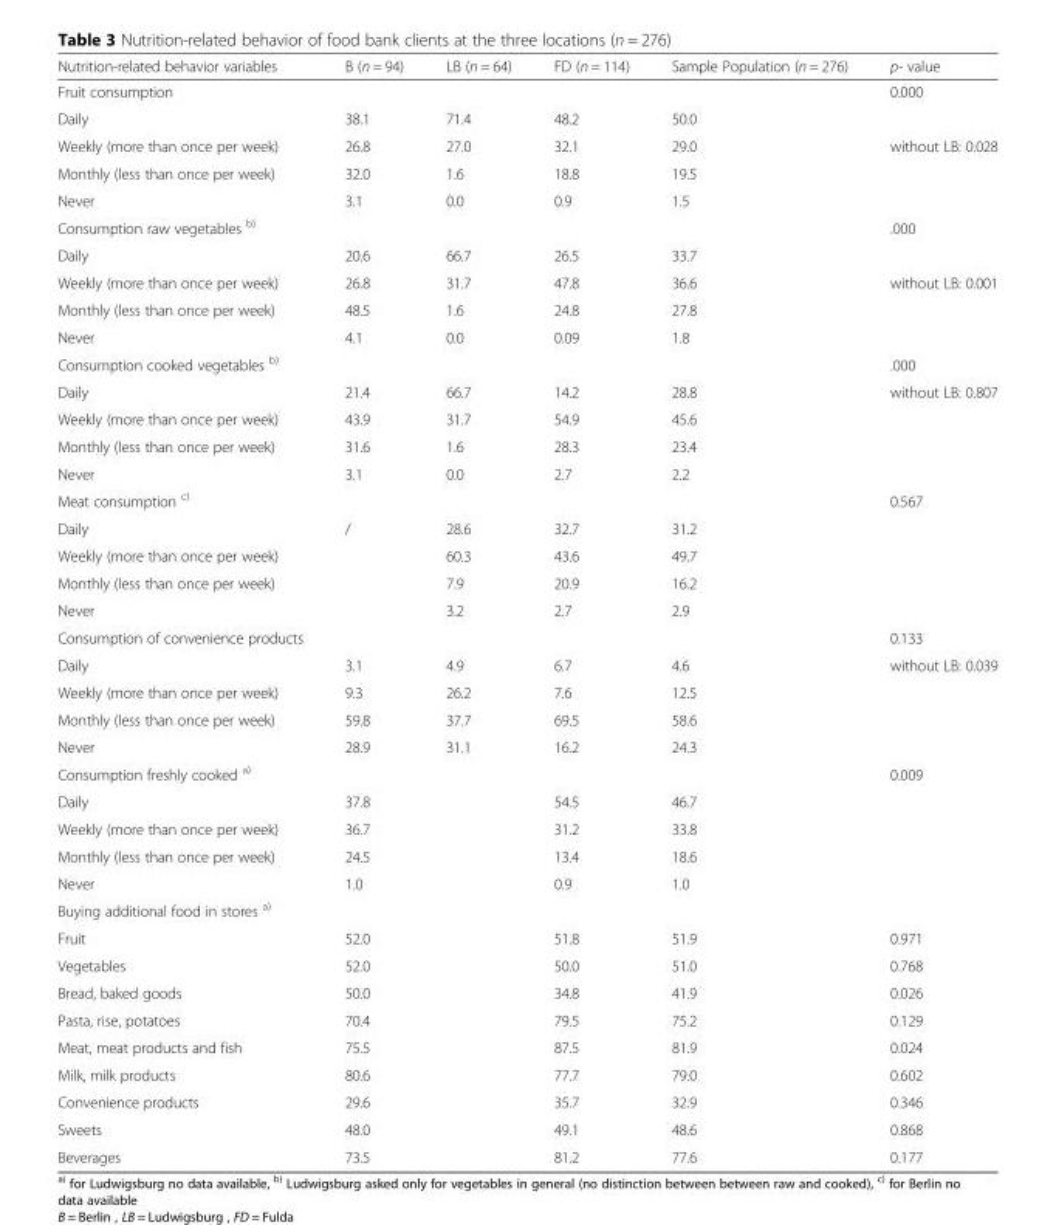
<table><thead><tr><td>Nutrition-related behavior variables</td><td>B (n = 94)</td><td>LB (n = 64)</td><td>FD (n = 114)</td><td>Sample Population (n = 276)</td><td>p- value</td></tr></thead><tbody><tr><td>Fruit consumption</td><td></td><td></td><td></td><td></td><td>0.000</td></tr><tr><td>Daily</td><td>38.1</td><td>71.4</td><td>48.2</td><td>50.0</td><td></td></tr><tr><td>Weekly (more than once per week)</td><td>26.8</td><td>27.0</td><td>32.1</td><td>29.0</td><td rowspan="2">without LB: 0.028</td></tr><tr><td>Monthly (less than once per week)</td><td>32.0</td><td>1.6</td><td>18.8</td><td>19.5</td></tr><tr><td>Never</td><td>3.1</td><td>0.0</td><td>0.9</td><td>1.5</td><td></td></tr><tr><td>Consumption raw vegetables <sup>b)</sup></td><td></td><td></td><td></td><td></td><td>.000</td></tr><tr><td>Daily</td><td>20.6</td><td>66.7</td><td>26.5</td><td>33.7</td><td></td></tr><tr><td>Weekly (more than once per week)</td><td>26.8</td><td>31.7</td><td>47.8</td><td>36.6</td><td rowspan="2">without LB: 0.001</td></tr><tr><td>Monthly (less than once per week)</td><td>48.5</td><td>1.6</td><td>24.8</td><td>27.8</td></tr><tr><td>Never</td><td>4.1</td><td>0.0</td><td>0.09</td><td>1.8</td><td></td></tr><tr><td>Consumption cooked vegetables <sup>b)</sup></td><td></td><td></td><td></td><td></td><td>.000</td></tr><tr><td>Daily</td><td>21.4</td><td>66.7</td><td>14.2</td><td>28.8</td><td rowspan="2">without LB: 0.807</td></tr><tr><td>Weekly (more than once per week)</td><td>43.9</td><td>31.7</td><td>54.9</td><td>45.6</td></tr><tr><td>Monthly (less than once per week)</td><td>31.6</td><td>1.6</td><td>28.3</td><td>23.4</td><td></td></tr><tr><td>Never</td><td>3.1</td><td>0.0</td><td>2.7</td><td>2.2</td><td></td></tr><tr><td>Meat consumption <sup>c)</sup></td><td></td><td></td><td></td><td></td><td>0.567</td></tr><tr><td>Daily</td><td>/</td><td>28.6</td><td>32.7</td><td>31.2</td><td></td></tr><tr><td>Weekly (more than once per week)</td><td></td><td>60.3</td><td>43.6</td><td>49.7</td><td></td></tr><tr><td>Monthly (less than once per week)</td><td></td><td>7.9</td><td>20.9</td><td>16.2</td><td></td></tr><tr><td>Never</td><td></td><td>3.2</td><td>2.7</td><td>2.9</td><td></td></tr><tr><td>Consumption of convenience products</td><td></td><td></td><td></td><td></td><td>0.133</td></tr><tr><td>Daily</td><td>3.1</td><td>4.9</td><td>6.7</td><td>4.6</td><td rowspan="2">without LB: 0.039</td></tr><tr><td>Weekly (more than once per week)</td><td>9.3</td><td>26.2</td><td>7.6</td><td>12.5</td></tr><tr><td>Monthly (less than once per week)</td><td>59.8</td><td>37.7</td><td>69.5</td><td>58.6</td><td></td></tr><tr><td>Never</td><td>28.9</td><td>31.1</td><td>16.2</td><td>24.3</td><td></td></tr><tr><td>Consumption freshly cooked <sup>a)</sup></td><td></td><td></td><td></td><td></td><td>0.009</td></tr><tr><td>Daily</td><td>37.8</td><td></td><td>54.5</td><td>46.7</td><td></td></tr><tr><td>Weekly (more than once per week)</td><td>36.7</td><td></td><td>31.2</td><td>33.8</td><td></td></tr><tr><td>Monthly (less than once per week)</td><td>24.5</td><td></td><td>13.4</td><td>18.6</td><td></td></tr><tr><td>Never</td><td>1.0</td><td></td><td>0.9</td><td>1.0</td><td></td></tr><tr><td colspan="6">Buying additional food in stores <sup>a)</sup></td></tr><tr><td>Fruit</td><td>52.0</td><td></td><td>51.8</td><td>51.9</td><td>0.971</td></tr><tr><td>Vegetables</td><td>52.0</td><td></td><td>50.0</td><td>51.0</td><td>0.768</td></tr><tr><td>Bread, baked goods</td><td>50.0</td><td></td><td>34.8</td><td>41.9</td><td>0.026</td></tr><tr><td>Pasta, rise, potatoes</td><td>70.4</td><td></td><td>79.5</td><td>75.2</td><td>0.129</td></tr><tr><td>Meat, meat products and fish</td><td>75.5</td><td></td><td>87.5</td><td>81.9</td><td>0.024</td></tr><tr><td>Milk, milk products</td><td>80.6</td><td></td><td>77.7</td><td>79.0</td><td>0.602</td></tr><tr><td>Convenience products</td><td>29.6</td><td></td><td>35.7</td><td>32.9</td><td>0.346</td></tr><tr><td>Sweets</td><td>48.0</td><td></td><td>49.1</td><td>48.6</td><td>0.868</td></tr><tr><td>Beverages</td><td>73.5</td><td></td><td>81.2</td><td>77.6</td><td>0.177</td></tr></tbody></table>